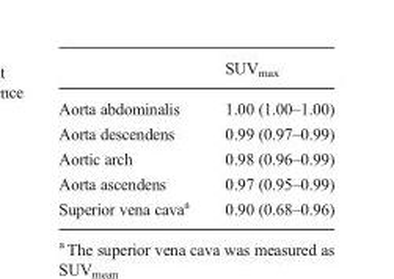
<table><thead><tr><td></td><td>SUV<sub>max</sub></td></tr></thead><tbody><tr><td>Aorta abdominalis</td><td>1.00 (1.00–1.00)</td></tr><tr><td>Aorta descendens</td><td>0.99 (0.97–0.99)</td></tr><tr><td>Aortic arch</td><td>0.98 (0.96–0.99)</td></tr><tr><td>Aorta ascendens</td><td>0.97 (0.95–0.99)</td></tr><tr><td>Superior vena cava<sup>a</sup></td><td>0.90 (0.68–0.96)</td></tr></tbody></table>